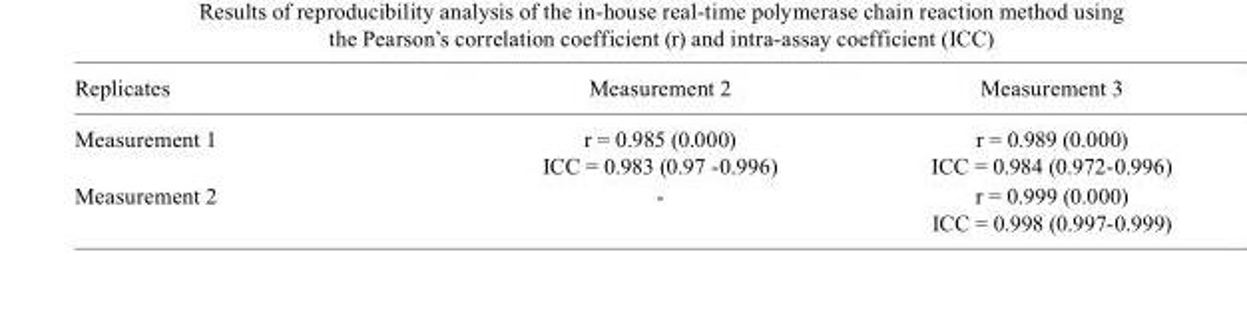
<table><thead><tr><td>Replicates</td><td>Measurement 2</td><td>Measurement 3</td></tr></thead><tbody><tr><td>Measurement 1</td><td>r = 0.985 (0.000) ICC = 0.983 (0.97 -0.996)</td><td>r = 0.989 (0.000) ICC = 0.984 (0.972-0.996)</td></tr><tr><td>Measurement 2</td><td>-</td><td>r = 0.999 (0.000) ICC = 0.998 (0.997-0.999)</td></tr></tbody></table>